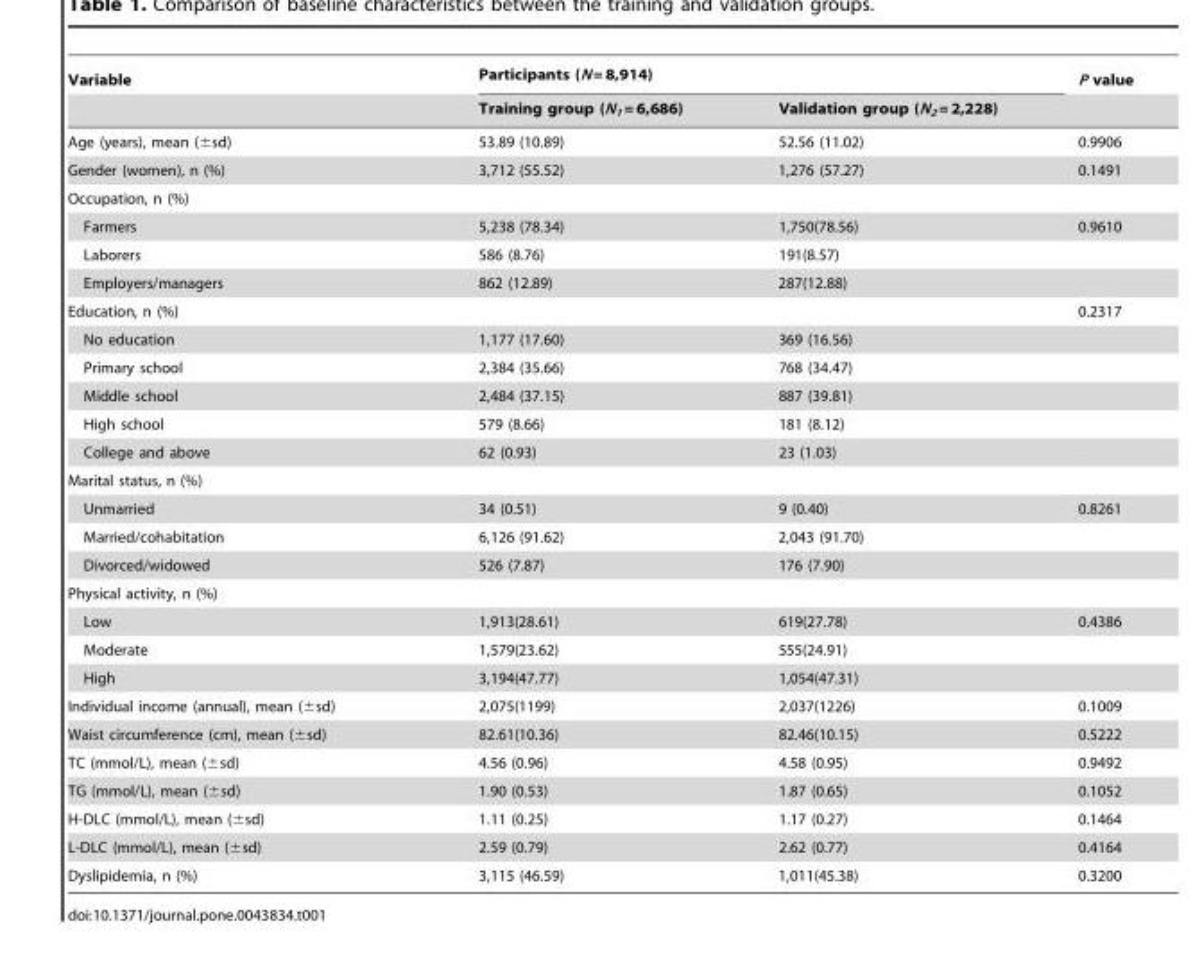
<table><thead><tr><td rowspan="2">Variable</td><td colspan="2">Participants (N = 8,914)</td><td rowspan="2">P value</td></tr><tr><td>Training group (N1 = 6,686)</td><td>Validation group (N2 = 2,228)</td></tr></thead><tbody><tr><td>Age (years), mean (±sd)</td><td>53.89 (10.89)</td><td>52.56 (11.02)</td><td>0.9906</td></tr><tr><td>Gender (women), n (%)</td><td>3,712 (55.52)</td><td>1,276 (57.27)</td><td>0.1491</td></tr><tr><td colspan="4">Occupation, n (%)</td></tr><tr><td>Farmers</td><td>5,238 (78.34)</td><td>1,750(78.56)</td><td>0.9610</td></tr><tr><td>Laborers</td><td>586 (8.76)</td><td>191(8.57)</td><td></td></tr><tr><td>Employers/managers</td><td>862 (12.89)</td><td>287(12.88)</td><td></td></tr><tr><td>Education, n (%)</td><td></td><td></td><td>0.2317</td></tr><tr><td>No education</td><td>1,177 (17.60)</td><td>369 (16.56)</td><td></td></tr><tr><td>Primary school</td><td>2,384 (35.66)</td><td>768 (34.47)</td><td></td></tr><tr><td>Middle school</td><td>2,484 (37.15)</td><td>887 (39.81)</td><td></td></tr><tr><td>High school</td><td>579 (8.66)</td><td>181 (8.12)</td><td></td></tr><tr><td>College and above</td><td>62 (0.93)</td><td>23 (1.03)</td><td></td></tr><tr><td colspan="4">Marital status, n (%)</td></tr><tr><td>Unmarried</td><td>34 (0.51)</td><td>9 (0.40)</td><td>0.8261</td></tr><tr><td>Married/cohabitation</td><td>6,126 (91.62)</td><td>2,043 (91.70)</td><td></td></tr><tr><td>Divorced/widowed</td><td>526 (7.87)</td><td>176 (7.90)</td><td></td></tr><tr><td colspan="4">Physical activity, n (%)</td></tr><tr><td>Low</td><td>1,913(28.61)</td><td>619(27.78)</td><td>0.4386</td></tr><tr><td>Moderate</td><td>1,579(23.62)</td><td>555(24.91)</td><td></td></tr><tr><td>High</td><td>3,194(47.77)</td><td>1,054(47.31)</td><td></td></tr><tr><td>Individual income (annual), mean (±sd)</td><td>2,075(1199)</td><td>2,037(1226)</td><td>0.1009</td></tr><tr><td>Waist circumference (cm), mean (±sd)</td><td>82.61(10.36)</td><td>82.46(10.15)</td><td>0.5222</td></tr><tr><td>TC (mmol/L), mean (±sd)</td><td>4.56 (0.96)</td><td>4.58 (0.95)</td><td>0.9492</td></tr><tr><td>TG (mmol/L), mean (±sd)</td><td>1.90 (0.53)</td><td>1.87 (0.65)</td><td>0.1052</td></tr><tr><td>H-DLC (mmol/L), mean (±sd)</td><td>1.11 (0.25)</td><td>1.17 (0.27)</td><td>0.1464</td></tr><tr><td>L-DLC (mmol/L), mean (±sd)</td><td>2.59 (0.79)</td><td>2.62 (0.77)</td><td>0.4164</td></tr><tr><td>Dyslipidemia, n (%)</td><td>3,115 (46.59)</td><td>1,011(45.38)</td><td>0.3200</td></tr></tbody></table>